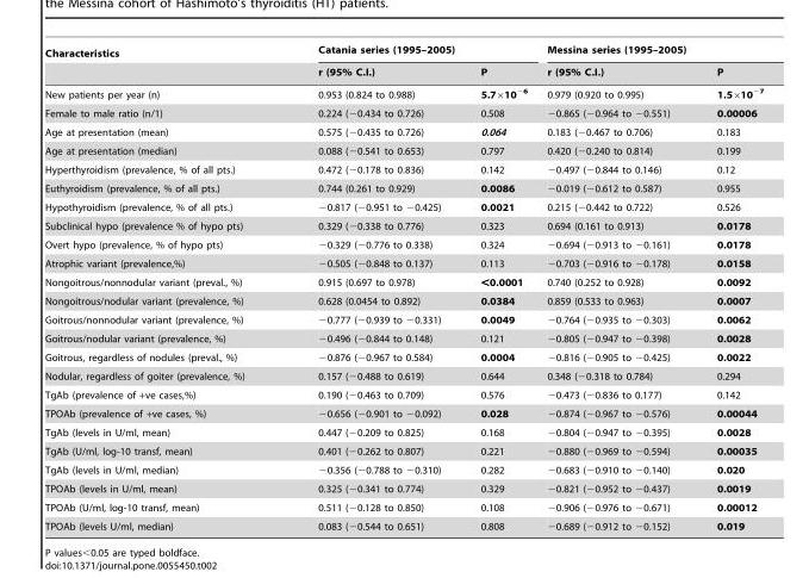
<table><thead><tr><td rowspan="2">Characteristics</td><td colspan="2">Catania series (1995–2005)</td><td colspan="2">Messina series (1995–2005)</td></tr><tr><td>r (95% C.I.)</td><td>P</td><td>r (95% C.I.)</td><td>P</td></tr></thead><tbody><tr><td>New patients per year (n)</td><td>0.953 (0.824 to 0.988)</td><td>5.7×10<sup>−6</sup></td><td>0.979 (0.920 to 0.995)</td><td>1.5×10<sup>−7</sup></td></tr><tr><td>Female to male ratio (n/1)</td><td>0.224 (−0.434 to 0.726)</td><td>0.508</td><td>−0.865 (−0.964 to −0.551)</td><td>0.00006</td></tr><tr><td>Age at presentation (mean)</td><td>0.575 (−0.435 to 0.726)</td><td>0.064</td><td>0.183 (−0.467 to 0.706)</td><td>0.183</td></tr><tr><td>Age at presentation (median)</td><td>0.088 (−0.541 to 0.653)</td><td>0.797</td><td>0.420 (−0.240 to 0.814)</td><td>0.199</td></tr><tr><td>Hyperthyroidism (prevalence, % of all pts.)</td><td>0.472 (−0.178 to 0.836)</td><td>0.142</td><td>−0.497 (−0.844 to 0.146)</td><td>0.12</td></tr><tr><td>Euthyroidism (prevalence, % of all pts.)</td><td>0.744 (0.261 to 0.929)</td><td>0.0086</td><td>−0.019 (−0.612 to 0.587)</td><td>0.955</td></tr><tr><td>Hypothyroidism (prevalence, % of all pts.)</td><td>−0.817 (−0.951 to −0.425)</td><td>0.0021</td><td>0.215 (−0.442 to 0.722)</td><td>0.526</td></tr><tr><td>Subclinical hypo (prevalence % of hypo pts)</td><td>0.329 (−0.338 to 0.776)</td><td>0.323</td><td>0.694 (0.161 to 0.913)</td><td>0.0178</td></tr><tr><td>Overt hypo (prevalence, % of hypo pts)</td><td>−0.329 (−0.776 to 0.338)</td><td>0.324</td><td>−0.694 (−0.913 to −0.161)</td><td>0.0178</td></tr><tr><td>Atrophic variant (prevalence,%)</td><td>−0.505 (−0.848 to 0.137)</td><td>0.113</td><td>−0.703 (−0.916 to −0.178)</td><td>0.0158</td></tr><tr><td>Nongoitrous/nonnodular variant (preval., %)</td><td>0.915 (0.697 to 0.978)</td><td>&lt;0.0001</td><td>0.740 (0.252 to 0.928)</td><td>0.0092</td></tr><tr><td>Nongoitrous/nodular variant (prevalence, %)</td><td>0.628 (0.0454 to 0.892)</td><td>0.0384</td><td>0.859 (0.533 to 0.963)</td><td>0.0007</td></tr><tr><td>Goitrous/nonnodular variant (prevalence, %)</td><td>−0.777 (−0.939 to −0.331)</td><td>0.0049</td><td>−0.764 (−0.935 to −0.303)</td><td>0.0062</td></tr><tr><td>Goitrous/nodular variant (prevalence, %)</td><td>−0.496 (−0.844 to 0.148)</td><td>0.121</td><td>−0.805 (−0.947 to −0.398)</td><td>0.0028</td></tr><tr><td>Goitrous, regardless of nodules (preval., %)</td><td>−0.876 (−0.967 to 0.584)</td><td>0.0004</td><td>−0.816 (−0.905 to −0.425)</td><td>0.0022</td></tr><tr><td>Nodular, regardless of goiter (prevalence, %)</td><td>0.157 (−0.488 to 0.619)</td><td>0.644</td><td>0.348 (−0.318 to 0.784)</td><td>0.294</td></tr><tr><td>TgAb (prevalence of +ve cases,%)</td><td>0.190 (−0.463 to 0.709)</td><td>0.576</td><td>−0.473 (−0.836 to 0.177)</td><td>0.142</td></tr><tr><td>TPOAb (prevalence of +ve cases, %)</td><td>−0.656 (−0.901 to −0.092)</td><td>0.028</td><td>−0.874 (−0.967 to −0.576)</td><td>0.00044</td></tr><tr><td>TgAb (levels in U/ml, mean)</td><td>0.447 (−0.209 to 0.825)</td><td>0.168</td><td>−0.804 (−0.947 to −0.395)</td><td>0.0028</td></tr><tr><td>TgAb (U/ml, log-10 transf, mean)</td><td>0.401 (−0.262 to 0.807)</td><td>0.221</td><td>−0.880 (−0.969 to −0.594)</td><td>0.00035</td></tr><tr><td>TgAb (levels in U/ml, median)</td><td>−0.356 (−0.788 to −0.310)</td><td>0.282</td><td>−0.683 (−0.910 to −0.140)</td><td>0.020</td></tr><tr><td>TPOAb (levels in U/ml, mean)</td><td>0.325 (−0.341 to 0.774)</td><td>0.329</td><td>−0.821 (−0.952 to −0.437)</td><td>0.0019</td></tr><tr><td>TPOAb (U/ml, log-10 transf, mean)</td><td>0.511 (−0.128 to 0.850)</td><td>0.108</td><td>−0.906 (−0.976 to −0.671)</td><td>0.00012</td></tr><tr><td>TPOAb (levels U/ml, median)</td><td>0.083 (−0.544 to 0.651)</td><td>0.808</td><td>−0.689 (−0.912 to −0.152)</td><td>0.019</td></tr></tbody></table>